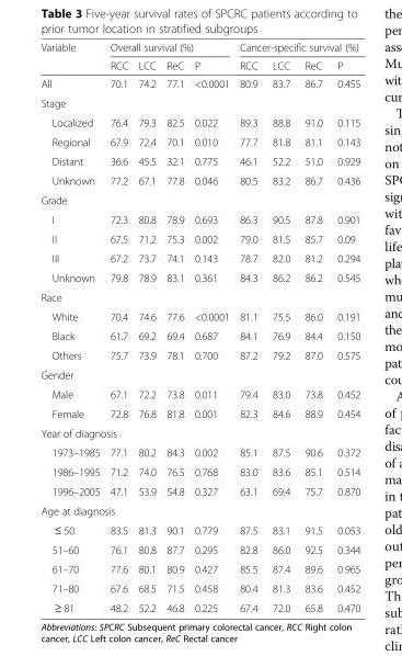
<table><thead><tr><td rowspan="2">Variable</td><td colspan="4">Overall survival (%)</td><td colspan="4">Cancer-specific survival (%)</td></tr><tr><td>RCC</td><td>LCC</td><td>ReC</td><td>P</td><td>RCC</td><td>LCC</td><td>ReC</td><td>P</td></tr></thead><tbody><tr><td>All</td><td>70.1</td><td>74.2</td><td>77.1</td><td>&lt;0.0001</td><td>80.9</td><td>83.7</td><td>86.7</td><td>0.455</td></tr><tr><td colspan="9">Stage</td></tr><tr><td>Localized</td><td>76.4</td><td>79.3</td><td>82.5</td><td>0.022</td><td>89.3</td><td>88.8</td><td>91.0</td><td>0.115</td></tr><tr><td>Regional</td><td>67.9</td><td>72.4</td><td>70.1</td><td>0.010</td><td>77.7</td><td>81.8</td><td>81.1</td><td>0.143</td></tr><tr><td>Distant</td><td>36.6</td><td>45.5</td><td>32.1</td><td>0.775</td><td>46.1</td><td>52.2</td><td>51.0</td><td>0.929</td></tr><tr><td>Unknown</td><td>77.2</td><td>67.1</td><td>77.8</td><td>0.046</td><td>80.5</td><td>83.2</td><td>86.7</td><td>0.436</td></tr><tr><td colspan="9">Grade</td></tr><tr><td>I</td><td>72.3</td><td>80.8</td><td>78.9</td><td>0.693</td><td>86.3</td><td>90.5</td><td>87.8</td><td>0.901</td></tr><tr><td>II</td><td>67.5</td><td>71.2</td><td>75.3</td><td>0.002</td><td>79.0</td><td>81.5</td><td>85.7</td><td>0.09</td></tr><tr><td>III</td><td>67.2</td><td>73.7</td><td>74.1</td><td>0.143</td><td>78.7</td><td>82.0</td><td>81.2</td><td>0.294</td></tr><tr><td>Unknown</td><td>79.8</td><td>78.9</td><td>83.1</td><td>0.361</td><td>84.3</td><td>86.2</td><td>86.2</td><td>0.545</td></tr><tr><td colspan="9">Race</td></tr><tr><td>White</td><td>70.4</td><td>74.6</td><td>77.6</td><td>&lt;0.0001</td><td>81.1</td><td>75.5</td><td>86.0</td><td>0.191</td></tr><tr><td>Black</td><td>61.7</td><td>69.2</td><td>69.4</td><td>0.687</td><td>84.1</td><td>76.9</td><td>84.4</td><td>0.150</td></tr><tr><td>Others</td><td>75.7</td><td>73.9</td><td>78.1</td><td>0.700</td><td>87.2</td><td>79.2</td><td>87.0</td><td>0.575</td></tr><tr><td colspan="9">Gender</td></tr><tr><td>Male</td><td>67.1</td><td>72.2</td><td>73.8</td><td>0.011</td><td>79.4</td><td>83.0</td><td>73.8</td><td>0.452</td></tr><tr><td>Female</td><td>72.8</td><td>76.8</td><td>81.8</td><td>0.001</td><td>82.3</td><td>84.6</td><td>88.9</td><td>0.454</td></tr><tr><td colspan="9">Year of diagnosis</td></tr><tr><td>1973–1985</td><td>77.1</td><td>80.2</td><td>84.3</td><td>0.002</td><td>85.1</td><td>87.5</td><td>90.6</td><td>0.372</td></tr><tr><td>1986–1995</td><td>71.2</td><td>74.0</td><td>76.5</td><td>0.768</td><td>83.0</td><td>83.6</td><td>85.1</td><td>0.514</td></tr><tr><td>1996–2005</td><td>47.1</td><td>53.9</td><td>54.8</td><td>0.327</td><td>63.1</td><td>69.4</td><td>75.7</td><td>0.870</td></tr><tr><td colspan="9">Age at diagnosis</td></tr><tr><td>≤ 50</td><td>83.5</td><td>81.3</td><td>90.1</td><td>0.779</td><td>87.5</td><td>83.1</td><td>91.5</td><td>0.053</td></tr><tr><td>51–60</td><td>76.1</td><td>80.8</td><td>87.7</td><td>0.295</td><td>82.8</td><td>86.0</td><td>92.5</td><td>0.344</td></tr><tr><td>61–70</td><td>77.6</td><td>80.1</td><td>80.9</td><td>0.427</td><td>85.5</td><td>87.4</td><td>89.6</td><td>0.965</td></tr><tr><td>71–80</td><td>67.6</td><td>68.5</td><td>71.5</td><td>0.458</td><td>80.4</td><td>81.3</td><td>83.6</td><td>0.452</td></tr><tr><td>≥ 81</td><td>48.2</td><td>52.2</td><td>46.8</td><td>0.225</td><td>67.4</td><td>72.0</td><td>65.8</td><td>0.470</td></tr></tbody></table>